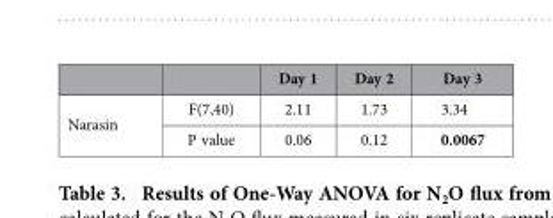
<table><thead><tr><td></td><td></td><td>Day 1</td><td>Day 2</td><td>Day 3</td></tr></thead><tbody><tr><td rowspan="2">Narasin</td><td>F(7,40)</td><td>2.11</td><td>1.73</td><td>3.34</td></tr><tr><td>P value</td><td>0.06</td><td>0.12</td><td>0.0067</td></tr></tbody></table>